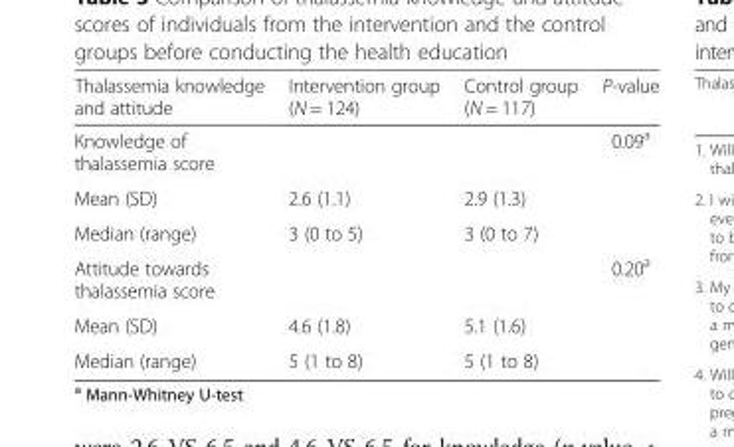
<table><thead><tr><td>Thalassemia knowledge and attitude</td><td>Intervention group (N = 124)</td><td>Control group (N = 117)</td><td>P-value</td></tr></thead><tbody><tr><td colspan="3">Knowledge of thalassemia score</td><td>0.09<sup>a</sup></td></tr><tr><td>Mean (SD)</td><td>2.6 (1.1)</td><td>2.9 (1.3)</td><td></td></tr><tr><td>Median (range)</td><td>3 (0 to 5)</td><td>3 (0 to 7)</td><td></td></tr><tr><td colspan="3">Attitude towards thalassemia score</td><td>0.20<sup>a</sup></td></tr><tr><td>Mean (SD)</td><td>4.6 (1.8)</td><td>5.1 (1.6)</td><td></td></tr><tr><td>Median (range)</td><td>5 (1 to 8)</td><td>5 (1 to 8)</td><td></td></tr></tbody></table>